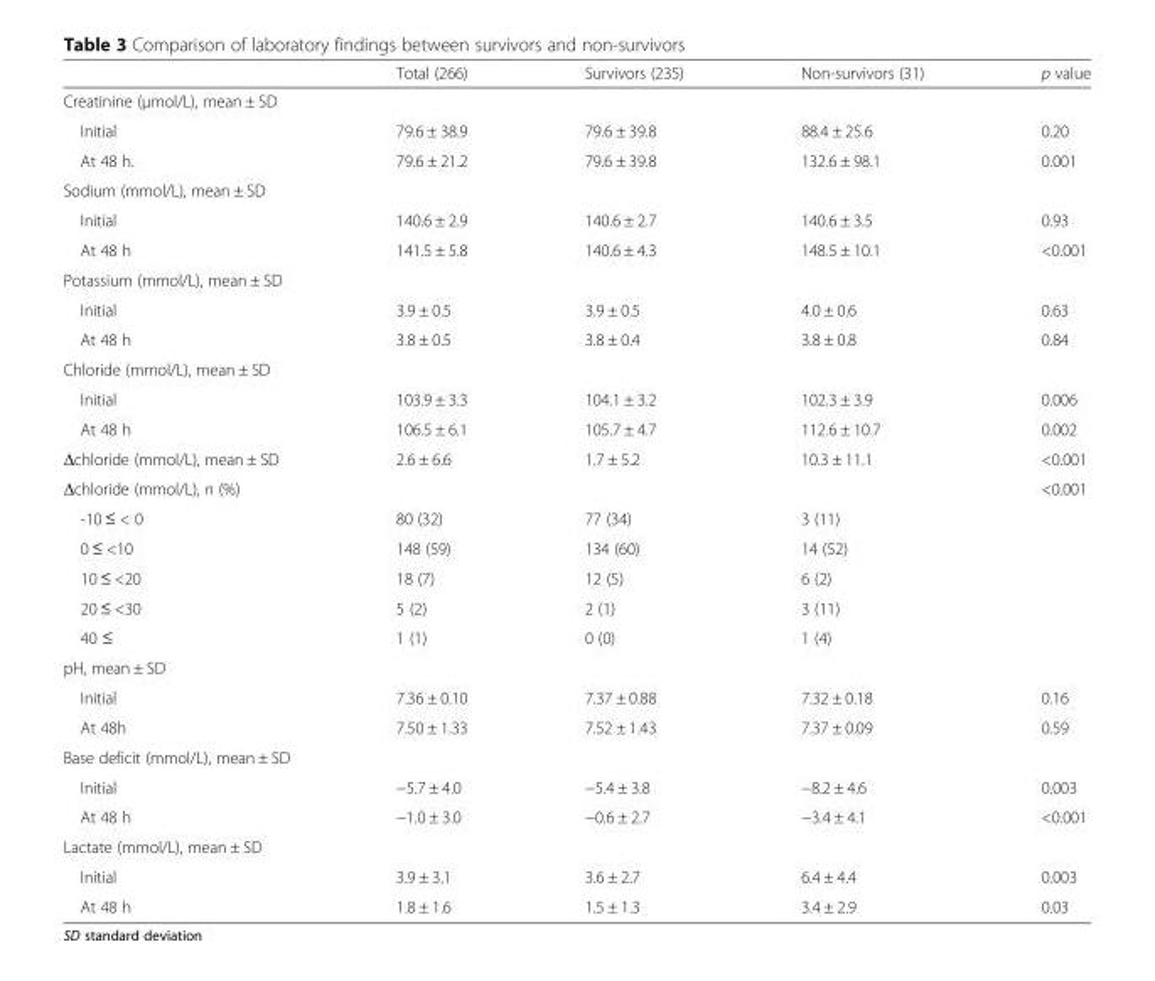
<table><thead><tr><td></td><td>Total (266)</td><td>Survivors (235)</td><td>Non-survivors (31)</td><td>p value</td></tr></thead><tbody><tr><td colspan="5">Creatinine (μmol/L), mean ± SD</td></tr><tr><td>Initial</td><td>79.6 ± 38.9</td><td>79.6 ± 39.8</td><td>88.4 ± 25.6</td><td>0.20</td></tr><tr><td>At 48 h.</td><td>79.6 ± 21.2</td><td>79.6 ± 39.8</td><td>132.6 ± 98.1</td><td>0.001</td></tr><tr><td colspan="5">Sodium (mmol/L), mean ± SD</td></tr><tr><td>Initial</td><td>140.6 ± 2.9</td><td>140.6 ± 2.7</td><td>140.6 ± 3.5</td><td>0.93</td></tr><tr><td>At 48 h</td><td>141.5 ± 5.8</td><td>140.6 ± 4.3</td><td>148.5 ± 10.1</td><td>&lt;0.001</td></tr><tr><td colspan="5">Potassium (mmol/L), mean ± SD</td></tr><tr><td>Initial</td><td>3.9 ± 0.5</td><td>3.9 ± 0.5</td><td>4.0 ± 0.6</td><td>0.63</td></tr><tr><td>At 48 h</td><td>3.8 ± 0.5</td><td>3.8 ± 0.4</td><td>3.8 ± 0.8</td><td>0.84</td></tr><tr><td colspan="5">Chloride (mmol/L), mean ± SD</td></tr><tr><td>Initial</td><td>103.9 ± 3.3</td><td>104.1 ± 3.2</td><td>102.3 ± 3.9</td><td>0.006</td></tr><tr><td>At 48 h</td><td>106.5 ± 6.1</td><td>105.7 ± 4.7</td><td>112.6 ± 10.7</td><td>0.002</td></tr><tr><td>Δchloride (mmol/L), mean ± SD</td><td>2.6 ± 6.6</td><td>1.7 ± 5.2</td><td>10.3 ± 11.1</td><td>&lt;0.001</td></tr><tr><td>Δchloride (mmol/L), n (%)</td><td></td><td></td><td></td><td>&lt;0.001</td></tr><tr><td>-10 ≤ &lt; 0</td><td>80 (32)</td><td>77 (34)</td><td>3 (11)</td><td></td></tr><tr><td>0 ≤ &lt;10</td><td>148 (59)</td><td>134 (60)</td><td>14 (52)</td><td></td></tr><tr><td>10 ≤ &lt;20</td><td>18 (7)</td><td>12 (5)</td><td>6 (2)</td><td></td></tr><tr><td>20 ≤ &lt;30</td><td>5 (2)</td><td>2 (1)</td><td>3 (11)</td><td></td></tr><tr><td>40 ≤</td><td>1 (1)</td><td>0 (0)</td><td>1 (4)</td><td></td></tr><tr><td colspan="5">pH, mean ± SD</td></tr><tr><td>Initial</td><td>7.36 ± 0.10</td><td>7.37 ± 0.88</td><td>7.32 ± 0.18</td><td>0.16</td></tr><tr><td>At 48h</td><td>7.50 ± 1.33</td><td>7.52 ± 1.43</td><td>7.37 ± 0.09</td><td>0.59</td></tr><tr><td colspan="5">Base deficit (mmol/L), mean ± SD</td></tr><tr><td>Initial</td><td>−5.7 ± 4.0</td><td>−5.4 ± 3.8</td><td>−8.2 ± 4.6</td><td>0.003</td></tr><tr><td>At 48 h</td><td>−1.0 ± 3.0</td><td>−0.6 ± 2.7</td><td>−3.4 ± 4.1</td><td>&lt;0.001</td></tr><tr><td colspan="5">Lactate (mmol/L), mean ± SD</td></tr><tr><td>Initial</td><td>3.9 ± 3.1</td><td>3.6 ± 2.7</td><td>6.4 ± 4.4</td><td>0.003</td></tr><tr><td>At 48 h</td><td>1.8 ± 1.6</td><td>1.5 ± 1.3</td><td>3.4 ± 2.9</td><td>0.03</td></tr></tbody></table>